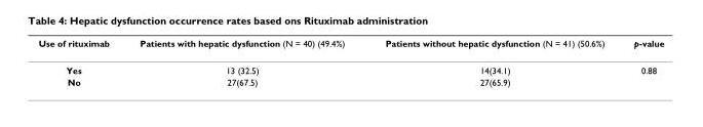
<table><thead><tr><td>Use of rituximab</td><td>Patients with hepatic dysfunction (N = 40) (49.4%)</td><td>Patients without hepatic dysfunction (N = 41) (50.6%)</td><td>p-value</td></tr></thead><tbody><tr><td>Yes</td><td>13 (32.5)</td><td>14(34.1)</td><td>0.88</td></tr><tr><td>No</td><td>27(67.5)</td><td>27(65.9)</td><td></td></tr></tbody></table>